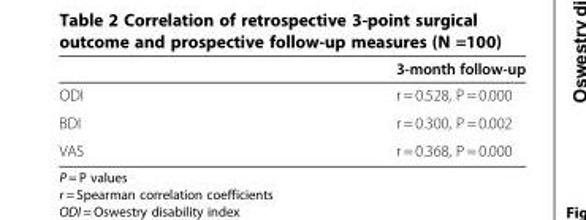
<table><thead><tr><td></td><td>3-month follow-up</td></tr></thead><tbody><tr><td>ODI</td><td>r = 0.528, P = 0.000</td></tr><tr><td>BDI</td><td>r = 0.300, P = 0.002</td></tr><tr><td>VAS</td><td>r = 0.368, P = 0.000</td></tr></tbody></table>